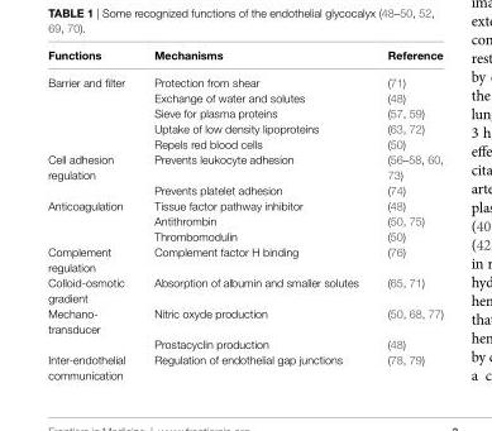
<table><thead><tr><td>Functions</td><td>Mechanisms</td><td>Reference</td></tr></thead><tbody><tr><td rowspan="5">Barrier and filter</td><td>Protection from shear</td><td>(71)</td></tr><tr><td>Exchange of water and solutes</td><td>(48)</td></tr><tr><td>Sieve for plasma proteins</td><td>(57, 59)</td></tr><tr><td>Uptake of low density lipoproteins</td><td>(63, 72)</td></tr><tr><td>Repels red blood cells</td><td>(50)</td></tr><tr><td rowspan="2">Cell adhesion regulation</td><td>Prevents leukocyte adhesion</td><td>(56–58, 60, 73)</td></tr><tr><td>Prevents platelet adhesion</td><td>(74)</td></tr><tr><td rowspan="3">Anticoagulation</td><td>Tissue factor pathway inhibitor</td><td>(48)</td></tr><tr><td>Antithrombin</td><td>(50, 75)</td></tr><tr><td>Thrombomodulin</td><td>(50)</td></tr><tr><td>Complement regulation</td><td>Complement factor H binding</td><td>(76)</td></tr><tr><td>Colloid-osmotic gradient</td><td>Absorption of albumin and smaller solutes</td><td>(65, 71)</td></tr><tr><td rowspan="2">Mechano- transducer</td><td>Nitric oxyde production</td><td>(50, 68, 77)</td></tr><tr><td>Prostacyclin production</td><td>(48)</td></tr><tr><td>Inter-endothelial communication</td><td>Regulation of endothelial gap junctions</td><td>(78, 79)</td></tr></tbody></table>